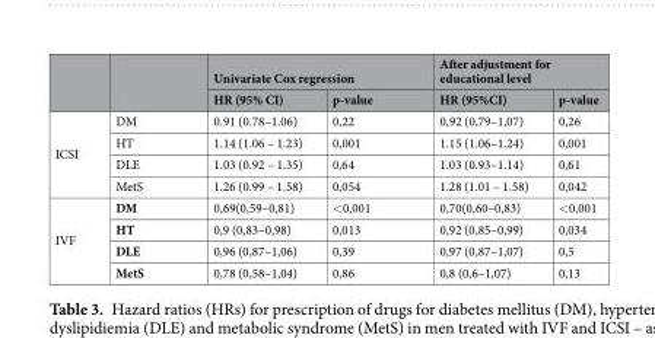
<table><thead><tr><td rowspan="2"></td><td rowspan="2"></td><td colspan="2">Univariate Cox regression</td><td colspan="2">After adjustment for educational level</td></tr><tr><td>HR (95% CI)</td><td>p-value</td><td>HR (95%CI)</td><td>p-value</td></tr></thead><tbody><tr><td rowspan="4">ICSI</td><td>DM</td><td>0.91 (0.78–1.06)</td><td>0,22</td><td>0,92 (0,79–1,07)</td><td>0,26</td></tr><tr><td>HT</td><td>1.14 (1.06 – 1.23)</td><td>0,001</td><td>1.15 (1.06–1.24)</td><td>0,001</td></tr><tr><td>DLE</td><td>1.03 (0.92 – 1.35)</td><td>0,64</td><td>1.03 (0.93–1.14)</td><td>0,61</td></tr><tr><td>MetS</td><td>1.26 (0.99 – 1.58)</td><td>0,054</td><td>1.28 (1.01 – 1.58)</td><td>0,042</td></tr><tr><td rowspan="4">IVF</td><td>DM</td><td>0,69(0,59–0,81)</td><td>&lt;0,001</td><td>0,70(0,60–0,83)</td><td>&lt;0,001</td></tr><tr><td>HT</td><td>0,9 (0,83–0,98)</td><td>0,013</td><td>0,92 (0,85–0,99)</td><td>0,034</td></tr><tr><td>DLE</td><td>0,96 (0,87–1,06)</td><td>0,39</td><td>0,97 (0,87–1,07)</td><td>0,5</td></tr><tr><td>MetS</td><td>0,78 (0,58–1,04)</td><td>0,86</td><td>0,8 (0,6–1,07)</td><td>0,13</td></tr></tbody></table>